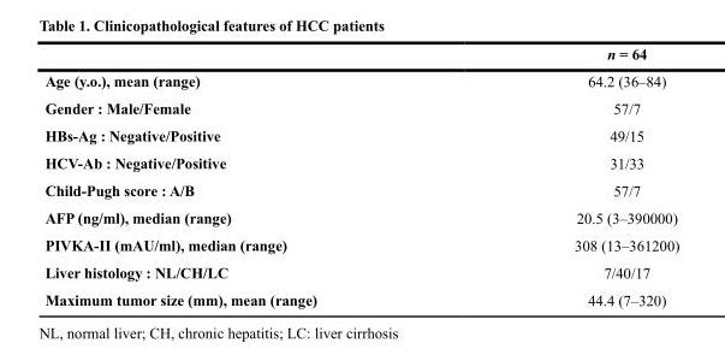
<table><thead><tr><td></td><td>n = 64</td></tr></thead><tbody><tr><td>Age (y.o.), mean (range)</td><td>64.2 (36–84)</td></tr><tr><td>Gender : Male/Female</td><td>57/7</td></tr><tr><td>HBs-Ag : Negative/Positive</td><td>49/15</td></tr><tr><td>HCV-Ab : Negative/Positive</td><td>31/33</td></tr><tr><td>Child-Pugh score : A/B</td><td>57/7</td></tr><tr><td>AFP (ng/ml), median (range)</td><td>20.5 (3–390000)</td></tr><tr><td>PIVKA-II (mAU/ml), median (range)</td><td>308 (13–361200)</td></tr><tr><td>Liver histology : NL/CH/LC</td><td>7/40/17</td></tr><tr><td>Maximum tumor size (mm), mean (range)</td><td>44.4 (7–320)</td></tr></tbody></table>